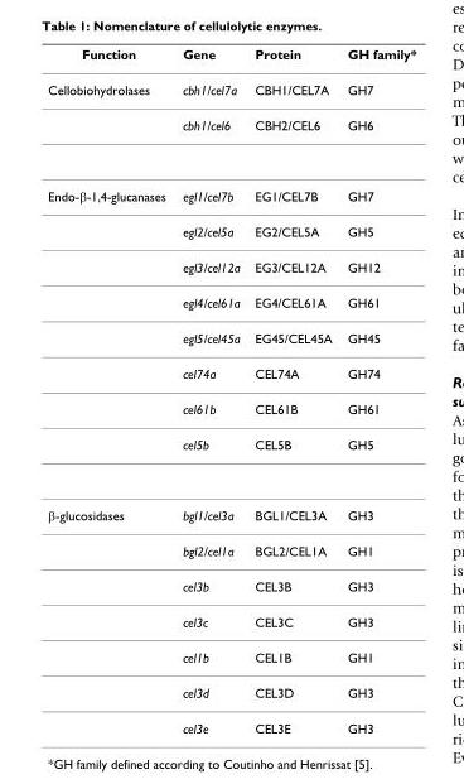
<table><thead><tr><td>Function</td><td>Gene</td><td>Protein</td><td>GH family*</td></tr></thead><tbody><tr><td rowspan="2">Cellobiohydrolases</td><td>cbh1/cel7a</td><td>CBH1/CEL7A</td><td>GH7</td></tr><tr><td>cbh1/cel6</td><td>CBH2/CEL6</td><td>GH6</td></tr><tr><td rowspan="8">Endo-β-1,4-glucanases</td><td>egl1/cel7b</td><td>EG1/CEL7B</td><td>GH7</td></tr><tr><td>egl2/cel5a</td><td>EG2/CEL5A</td><td>GH5</td></tr><tr><td>egl3/cel12a</td><td>EG3/CEL12A</td><td>GH12</td></tr><tr><td>egl4/cel61a</td><td>EG4/CEL61A</td><td>GH61</td></tr><tr><td>egl5/cel45a</td><td>EG45/CEL45A</td><td>GH45</td></tr><tr><td>cel74a</td><td>CEL74A</td><td>GH74</td></tr><tr><td>cel61b</td><td>CEL61B</td><td>GH61</td></tr><tr><td>cel5b</td><td>CEL5B</td><td>GH5</td></tr><tr><td rowspan="7">β-glucosidases</td><td>bgl1/cel3a</td><td>BGL1/CEL3A</td><td>GH3</td></tr><tr><td>bgl2/cel1a</td><td>BGL2/CEL1A</td><td>GH1</td></tr><tr><td>cel3b</td><td>CEL3B</td><td>GH3</td></tr><tr><td>cel3c</td><td>CEL3C</td><td>GH3</td></tr><tr><td>cel1b</td><td>CEL1B</td><td>GH1</td></tr><tr><td>cel3d</td><td>CEL3D</td><td>GH3</td></tr><tr><td>cel3e</td><td>CEL3E</td><td>GH3</td></tr></tbody></table>